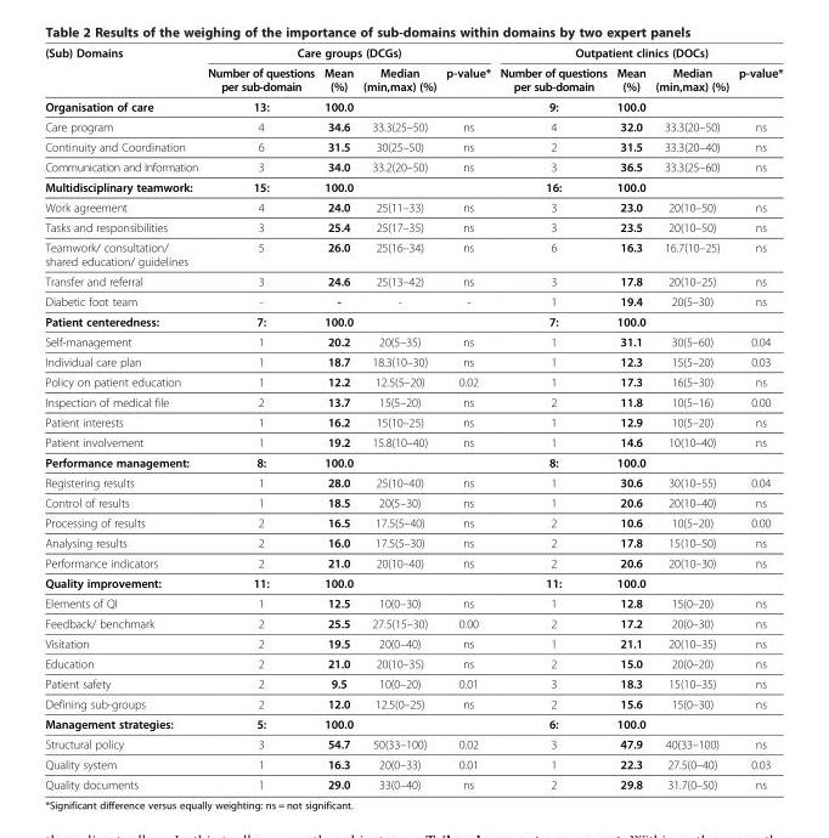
<table><thead><tr><td rowspan="2">(Sub) Domains</td><td colspan="4">Care groups (DCGs)</td><td colspan="4">Outpatient clinics (DOCs)</td></tr><tr><td>Number of questions per sub-domain</td><td>Mean (%)</td><td>Median (min,max) (%)</td><td>p-value*</td><td>Number of questions per sub-domain</td><td>Mean (%)</td><td>Median (min,max) (%)</td><td>p-value*</td></tr></thead><tbody><tr><td>Organisation of care</td><td>13:</td><td>100.0</td><td></td><td></td><td>9:</td><td>100.0</td><td></td><td></td></tr><tr><td>Care program</td><td>4</td><td>34.6</td><td>33.3(25–50)</td><td>ns</td><td>4</td><td>32.0</td><td>33.3(20–50)</td><td>ns</td></tr><tr><td>Continuity and Coordination</td><td>6</td><td>31.5</td><td>30(25–50)</td><td>ns</td><td>2</td><td>31.5</td><td>33.3(20–40)</td><td>ns</td></tr><tr><td>Communication and Information</td><td>3</td><td>34.0</td><td>33.2(20–50)</td><td>ns</td><td>3</td><td>36.5</td><td>33.3(25–60)</td><td>ns</td></tr><tr><td>Multidisciplinary teamwork:</td><td>15:</td><td>100.0</td><td></td><td></td><td>16:</td><td>100.0</td><td></td><td></td></tr><tr><td>Work agreement</td><td>4</td><td>24.0</td><td>25(11–33)</td><td>ns</td><td>3</td><td>23.0</td><td>20(10–50)</td><td>ns</td></tr><tr><td>Tasks and responsibilities</td><td>3</td><td>25.4</td><td>25(17–35)</td><td>ns</td><td>3</td><td>23.5</td><td>20(10–50)</td><td>ns</td></tr><tr><td>Teamwork/ consultation/ shared education/ guidelines</td><td>5</td><td>26.0</td><td>25(16–34)</td><td>ns</td><td>6</td><td>16.3</td><td>16.7(10–25)</td><td>ns</td></tr><tr><td>Transfer and referral</td><td>3</td><td>24.6</td><td>25(13–42)</td><td>ns</td><td>3</td><td>17.8</td><td>20(10–25)</td><td>ns</td></tr><tr><td>Diabetic foot team</td><td>-</td><td>-</td><td>-</td><td>-</td><td>1</td><td>19.4</td><td>20(5–30)</td><td>ns</td></tr><tr><td>Patient centeredness:</td><td>7:</td><td>100.0</td><td></td><td></td><td>7:</td><td>100.0</td><td></td><td></td></tr><tr><td>Self-management</td><td>1</td><td>20.2</td><td>20(5–35)</td><td>ns</td><td>1</td><td>31.1</td><td>30(5–60)</td><td>0.04</td></tr><tr><td>Individual care plan</td><td>1</td><td>18.7</td><td>18.3(10–30)</td><td>ns</td><td>1</td><td>12.3</td><td>15(5–20)</td><td>0.03</td></tr><tr><td>Policy on patient education</td><td>1</td><td>12.2</td><td>12.5(5–20)</td><td>0.02</td><td>1</td><td>17.3</td><td>16(5–30)</td><td>ns</td></tr><tr><td>Inspection of medical file</td><td>2</td><td>13.7</td><td>15(5–20)</td><td>ns</td><td>2</td><td>11.8</td><td>10(5–16)</td><td>0.00</td></tr><tr><td>Patient interests</td><td>1</td><td>16.2</td><td>15(10–25)</td><td>ns</td><td>1</td><td>12.9</td><td>10(5–20)</td><td>ns</td></tr><tr><td>Patient involvement</td><td>1</td><td>19.2</td><td>15.8(10–40)</td><td>ns</td><td>1</td><td>14.6</td><td>10(10–40)</td><td>ns</td></tr><tr><td>Performance management:</td><td>8:</td><td>100.0</td><td></td><td></td><td>8:</td><td>100.0</td><td></td><td></td></tr><tr><td>Registering results</td><td>1</td><td>28.0</td><td>25(10–40)</td><td>ns</td><td>1</td><td>30.6</td><td>30(10–55)</td><td>0.04</td></tr><tr><td>Control of results</td><td>1</td><td>18.5</td><td>20(5–30)</td><td>ns</td><td>1</td><td>20.6</td><td>20(10–40)</td><td>ns</td></tr><tr><td>Processing of results</td><td>2</td><td>16.5</td><td>17.5(5–40)</td><td>ns</td><td>2</td><td>10.6</td><td>10(5–20)</td><td>0.00</td></tr><tr><td>Analysing results</td><td>2</td><td>16.0</td><td>17.5(5–30)</td><td>ns</td><td>2</td><td>17.8</td><td>15(10–50)</td><td>ns</td></tr><tr><td>Performance indicators</td><td>2</td><td>21.0</td><td>20(10–40)</td><td>ns</td><td>2</td><td>20.6</td><td>20(10–30)</td><td>ns</td></tr><tr><td>Quality improvement:</td><td>11:</td><td>100.0</td><td></td><td></td><td>11:</td><td>100.0</td><td></td><td></td></tr><tr><td>Elements of QI</td><td>1</td><td>12.5</td><td>10(0–30)</td><td>ns</td><td>1</td><td>12.8</td><td>15(0–20)</td><td>ns</td></tr><tr><td>Feedback/ benchmark</td><td>2</td><td>25.5</td><td>27.5(15–30)</td><td>0.00</td><td>2</td><td>17.2</td><td>20(0–30)</td><td>ns</td></tr><tr><td>Visitation</td><td>2</td><td>19.5</td><td>20(0–40)</td><td>ns</td><td>1</td><td>21.1</td><td>20(10–35)</td><td>ns</td></tr><tr><td>Education</td><td>2</td><td>21.0</td><td>20(10–35)</td><td>ns</td><td>2</td><td>15.0</td><td>20(0–20)</td><td>ns</td></tr><tr><td>Patient safety</td><td>2</td><td>9.5</td><td>10(0–20)</td><td>0.01</td><td>3</td><td>18.3</td><td>15(10–35)</td><td>ns</td></tr><tr><td>Defining sub-groups</td><td>2</td><td>12.0</td><td>12.5(0–25)</td><td>ns</td><td>2</td><td>15.6</td><td>15(0–30)</td><td>ns</td></tr><tr><td>Management strategies:</td><td>5:</td><td>100.0</td><td></td><td></td><td>6:</td><td>100.0</td><td></td><td></td></tr><tr><td>Structural policy</td><td>3</td><td>54.7</td><td>50(33–100)</td><td>0.02</td><td>3</td><td>47.9</td><td>40(33–100)</td><td>ns</td></tr><tr><td>Quality system</td><td>1</td><td>16.3</td><td>20(0–33)</td><td>0.01</td><td>1</td><td>22.3</td><td>27.5(0–40)</td><td>0.03</td></tr><tr><td>Quality documents</td><td>1</td><td>29.0</td><td>33(0–40)</td><td>ns</td><td>2</td><td>29.8</td><td>31.7(0–50)</td><td>ns</td></tr></tbody></table>